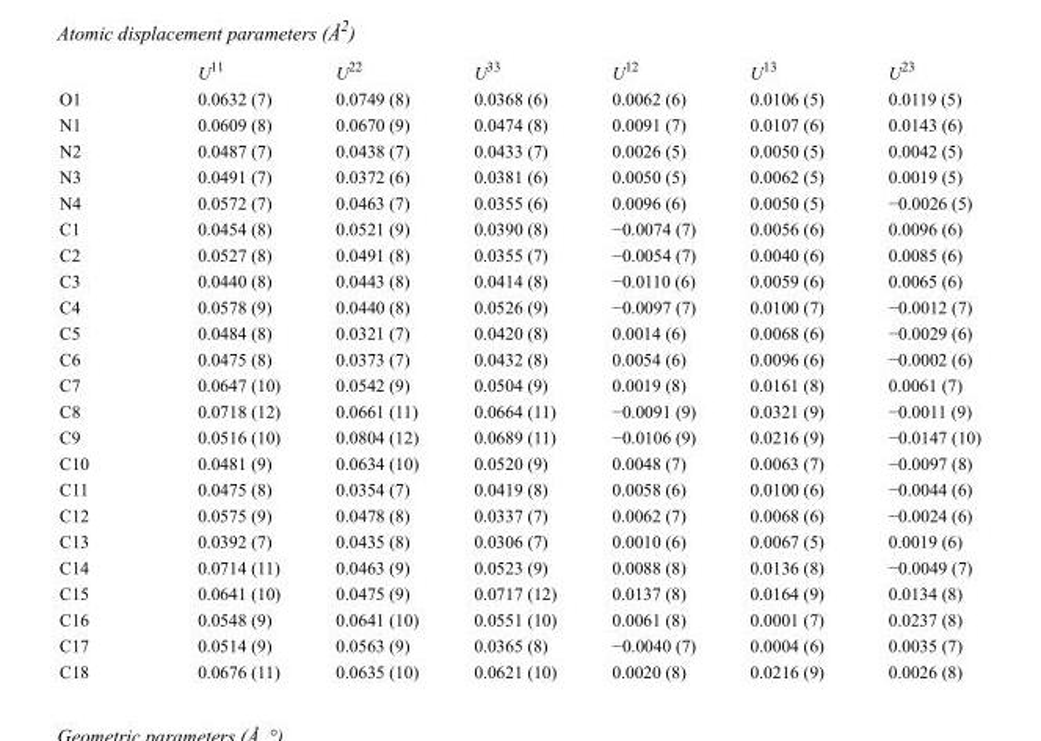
<table><thead><tr><td></td><td>U<sup>11</sup></td><td>U<sup>22</sup></td><td>U<sup>33</sup></td><td>U<sup>12</sup></td><td>U<sup>13</sup></td><td>U<sup>23</sup></td></tr></thead><tbody><tr><td>O1</td><td>0.0632 (7)</td><td>0.0749 (8)</td><td>0.0368 (6)</td><td>0.0062 (6)</td><td>0.0106 (5)</td><td>0.0119 (5)</td></tr><tr><td>N1</td><td>0.0609 (8)</td><td>0.0670 (9)</td><td>0.0474 (8)</td><td>0.0091 (7)</td><td>0.0107 (6)</td><td>0.0143 (6)</td></tr><tr><td>N2</td><td>0.0487 (7)</td><td>0.0438 (7)</td><td>0.0433 (7)</td><td>0.0026 (5)</td><td>0.0050 (5)</td><td>0.0042 (5)</td></tr><tr><td>N3</td><td>0.0491 (7)</td><td>0.0372 (6)</td><td>0.0381 (6)</td><td>0.0050 (5)</td><td>0.0062 (5)</td><td>0.0019 (5)</td></tr><tr><td>N4</td><td>0.0572 (7)</td><td>0.0463 (7)</td><td>0.0355 (6)</td><td>0.0096 (6)</td><td>0.0050 (5)</td><td>−0.0026 (5)</td></tr><tr><td>C1</td><td>0.0454 (8)</td><td>0.0521 (9)</td><td>0.0390 (8)</td><td>−0.0074 (7)</td><td>0.0056 (6)</td><td>0.0096 (6)</td></tr><tr><td>C2</td><td>0.0527 (8)</td><td>0.0491 (8)</td><td>0.0355 (7)</td><td>−0.0054 (7)</td><td>0.0040 (6)</td><td>0.0085 (6)</td></tr><tr><td>C3</td><td>0.0440 (8)</td><td>0.0443 (8)</td><td>0.0414 (8)</td><td>−0.0110 (6)</td><td>0.0059 (6)</td><td>0.0065 (6)</td></tr><tr><td>C4</td><td>0.0578 (9)</td><td>0.0440 (8)</td><td>0.0526 (9)</td><td>−0.0097 (7)</td><td>0.0100 (7)</td><td>−0.0012 (7)</td></tr><tr><td>C5</td><td>0.0484 (8)</td><td>0.0321 (7)</td><td>0.0420 (8)</td><td>0.0014 (6)</td><td>0.0068 (6)</td><td>−0.0029 (6)</td></tr><tr><td>C6</td><td>0.0475 (8)</td><td>0.0373 (7)</td><td>0.0432 (8)</td><td>0.0054 (6)</td><td>0.0096 (6)</td><td>−0.0002 (6)</td></tr><tr><td>C7</td><td>0.0647 (10)</td><td>0.0542 (9)</td><td>0.0504 (9)</td><td>0.0019 (8)</td><td>0.0161 (8)</td><td>0.0061 (7)</td></tr><tr><td>C8</td><td>0.0718 (12)</td><td>0.0661 (11)</td><td>0.0664 (11)</td><td>−0.0091 (9)</td><td>0.0321 (9)</td><td>−0.0011 (9)</td></tr><tr><td>C9</td><td>0.0516 (10)</td><td>0.0804 (12)</td><td>0.0689 (11)</td><td>−0.0106 (9)</td><td>0.0216 (9)</td><td>−0.0147 (10)</td></tr><tr><td>C10</td><td>0.0481 (9)</td><td>0.0634 (10)</td><td>0.0520 (9)</td><td>0.0048 (7)</td><td>0.0063 (7)</td><td>−0.0097 (8)</td></tr><tr><td>C11</td><td>0.0475 (8)</td><td>0.0354 (7)</td><td>0.0419 (8)</td><td>0.0058 (6)</td><td>0.0100 (6)</td><td>−0.0044 (6)</td></tr><tr><td>C12</td><td>0.0575 (9)</td><td>0.0478 (8)</td><td>0.0337 (7)</td><td>0.0062 (7)</td><td>0.0068 (6)</td><td>−0.0024 (6)</td></tr><tr><td>C13</td><td>0.0392 (7)</td><td>0.0435 (8)</td><td>0.0306 (7)</td><td>0.0010 (6)</td><td>0.0067 (5)</td><td>0.0019 (6)</td></tr><tr><td>C14</td><td>0.0714 (11)</td><td>0.0463 (9)</td><td>0.0523 (9)</td><td>0.0088 (8)</td><td>0.0136 (8)</td><td>−0.0049 (7)</td></tr><tr><td>C15</td><td>0.0641 (10)</td><td>0.0475 (9)</td><td>0.0717 (12)</td><td>0.0137 (8)</td><td>0.0164 (9)</td><td>0.0134 (8)</td></tr><tr><td>C16</td><td>0.0548 (9)</td><td>0.0641 (10)</td><td>0.0551 (10)</td><td>0.0061 (8)</td><td>0.0001 (7)</td><td>0.0237 (8)</td></tr><tr><td>C17</td><td>0.0514 (9)</td><td>0.0563 (9)</td><td>0.0365 (8)</td><td>−0.0040 (7)</td><td>0.0004 (6)</td><td>0.0035 (7)</td></tr><tr><td>C18</td><td>0.0676 (11)</td><td>0.0635 (10)</td><td>0.0621 (10)</td><td>0.0020 (8)</td><td>0.0216 (9)</td><td>0.0026 (8)</td></tr></tbody></table>